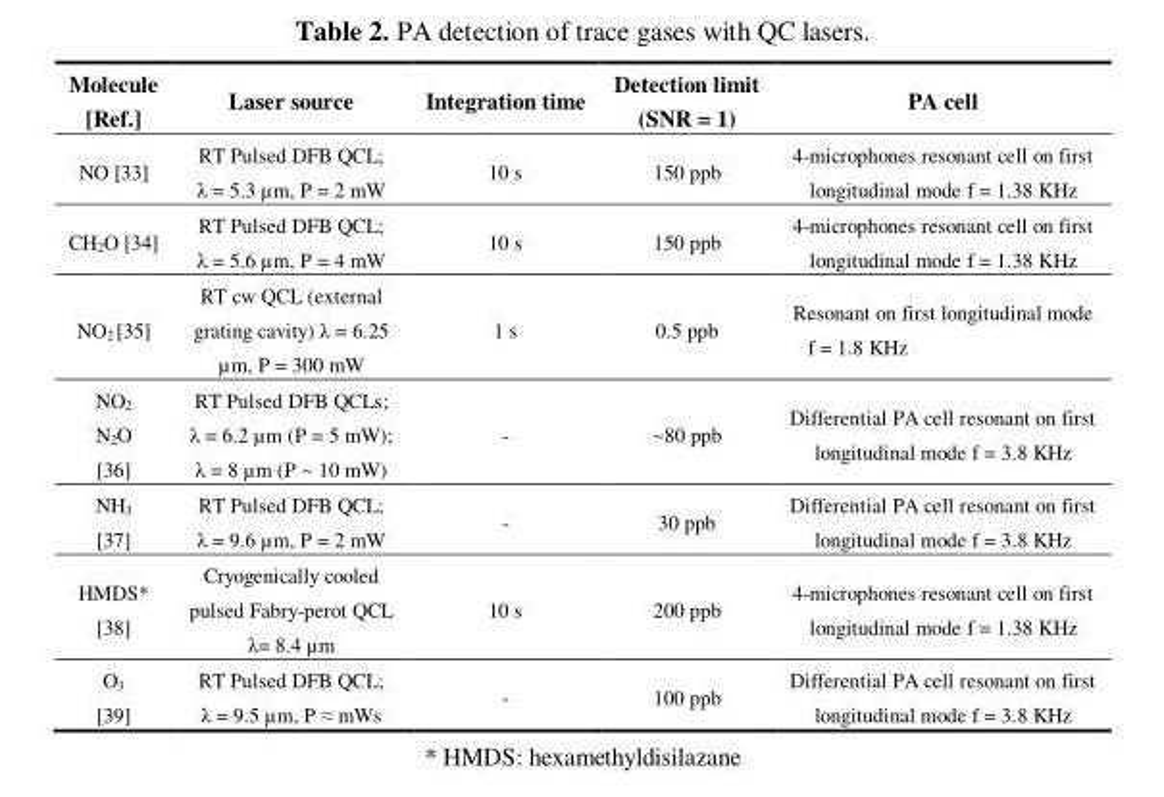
<table><thead><tr><td>Molecule [Ref.]</td><td>Laser source</td><td>Integration time</td><td>Detection limit (SNR = 1)</td><td>PA cell</td></tr></thead><tbody><tr><td>NO [33]</td><td>RT Pulsed DFB QCL; λ = 5.3 µm, P = 2 mW</td><td>10 s</td><td>150 ppb</td><td>4-microphones resonant cell on first longitudinal mode f = 1.38 KHz</td></tr><tr><td>CH<sub>2</sub>O [34]</td><td>RT Pulsed DFB QCL; λ = 5.6 µm, P = 4 mW</td><td>10 s</td><td>150 ppb</td><td>4-microphones resonant cell on first longitudinal mode f = 1.38 KHz</td></tr><tr><td>NO<sub>2</sub> [35]</td><td>RT cw QCL (external grating cavity) λ = 6.25 µm, P = 300 mW</td><td>1 s</td><td>0.5 ppb</td><td>Resonant on first longitudinal mode f = 1.8 KHz</td></tr><tr><td>NO<sub>2</sub> N<sub>2</sub>O [36]</td><td>RT Pulsed DFB QCLs; λ = 6.2 µm (P = 5 mW); λ = 8 µm (P ~ 10 mW)</td><td>-</td><td>~80 ppb</td><td>Differential PA cell resonant on first longitudinal mode f = 3.8 KHz</td></tr><tr><td>NH<sub>3</sub> [37]</td><td>RT Pulsed DFB QCL; λ = 9.6 µm, P = 2 mW</td><td>-</td><td>30 ppb</td><td>Differential PA cell resonant on first longitudinal mode f = 3.8 KHz</td></tr><tr><td>HMDS* [38]</td><td>Cryogenically cooled pulsed Fabry-perot QCL λ= 8.4 µm</td><td>10 s</td><td>200 ppb</td><td>4-microphones resonant cell on first longitudinal mode f = 1.38 KHz</td></tr><tr><td>O<sub>3</sub> [39]</td><td>RT Pulsed DFB QCL; λ = 9.5 µm, P ≈ mWs</td><td>-</td><td>100 ppb</td><td>Differential PA cell resonant on first longitudinal mode f = 3.8 KHz</td></tr></tbody></table>